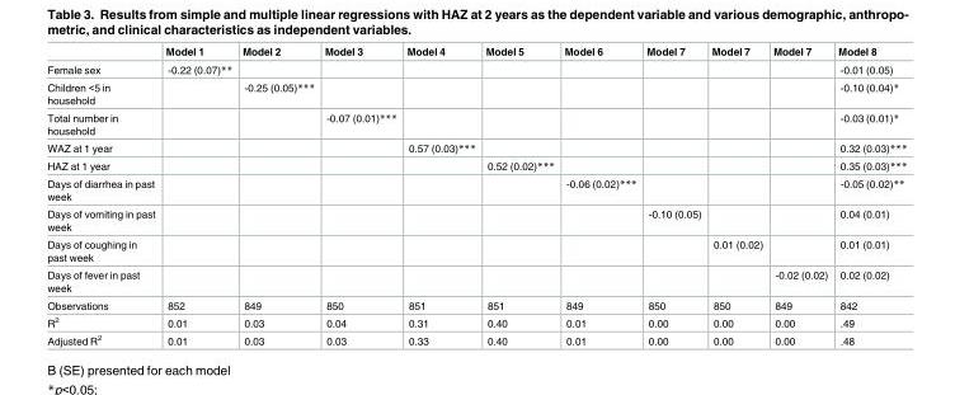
<table><thead><tr><td></td><td>Model 1</td><td>Model 2</td><td>Model 3</td><td>Model 4</td><td>Model 5</td><td>Model 6</td><td>Model 7</td><td>Model 7</td><td>Model 7</td><td>Model 8</td></tr></thead><tbody><tr><td>Female sex</td><td>-0.22 (0.07)**</td><td></td><td></td><td></td><td></td><td></td><td></td><td></td><td></td><td>-0.01 (0.05)</td></tr><tr><td>Children &lt;5 in household</td><td></td><td>-0.25 (0.05)***</td><td></td><td></td><td></td><td></td><td></td><td></td><td></td><td>-0.10 (0.04)*</td></tr><tr><td>Total number in household</td><td></td><td></td><td>-0.07 (0.01)***</td><td></td><td></td><td></td><td></td><td></td><td></td><td>-0.03 (0.01)*</td></tr><tr><td>WAZ at 1 year</td><td></td><td></td><td></td><td>0.57 (0.03)***</td><td></td><td></td><td></td><td></td><td></td><td>0.32 (0.03)***</td></tr><tr><td>HAZ at 1 year</td><td></td><td></td><td></td><td></td><td>0.52 (0.02)***</td><td></td><td></td><td></td><td></td><td>0.35 (0.03)***</td></tr><tr><td>Days of diarrhea in past week</td><td></td><td></td><td></td><td></td><td></td><td>-0.06 (0.02)***</td><td></td><td></td><td></td><td>-0.05 (0.02)**</td></tr><tr><td>Days of vomiting in past week</td><td></td><td></td><td></td><td></td><td></td><td></td><td>-0.10 (0.05)</td><td></td><td></td><td>0.04 (0.01)</td></tr><tr><td>Days of coughing in past week</td><td></td><td></td><td></td><td></td><td></td><td></td><td></td><td>0.01 (0.02)</td><td></td><td>0.01 (0.01)</td></tr><tr><td>Days of fever in past week</td><td></td><td></td><td></td><td></td><td></td><td></td><td></td><td></td><td>-0.02 (0.02)</td><td>0.02 (0.02)</td></tr><tr><td>Observations</td><td>852</td><td>849</td><td>850</td><td>851</td><td>851</td><td>849</td><td>850</td><td>850</td><td>849</td><td>842</td></tr><tr><td>R<sup>2</sup></td><td>0.01</td><td>0.03</td><td>0.04</td><td>0.31</td><td>0.40</td><td>0.01</td><td>0.00</td><td>0.00</td><td>0.00</td><td>.49</td></tr><tr><td>Adjusted R<sup>2</sup></td><td>0.01</td><td>0.03</td><td>0.03</td><td>0.33</td><td>0.40</td><td>0.01</td><td>0.00</td><td>0.00</td><td>0.00</td><td>.48</td></tr></tbody></table>